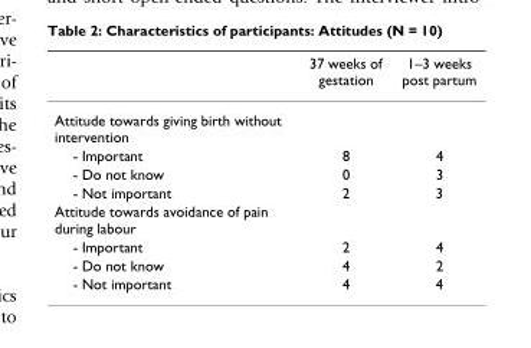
<table><thead><tr><td></td><td>37 weeks of gestation</td><td>1–3 weeks post partum</td></tr></thead><tbody><tr><td colspan="3">Attitude towards giving birth without intervention</td></tr><tr><td>- Important</td><td>8</td><td>4</td></tr><tr><td>- Do not know</td><td>0</td><td>3</td></tr><tr><td>- Not important</td><td>2</td><td>3</td></tr><tr><td colspan="3">Attitude towards avoidance of pain during labour</td></tr><tr><td>- Important</td><td>2</td><td>4</td></tr><tr><td>- Do not know</td><td>4</td><td>2</td></tr><tr><td>- Not important</td><td>4</td><td>4</td></tr></tbody></table>